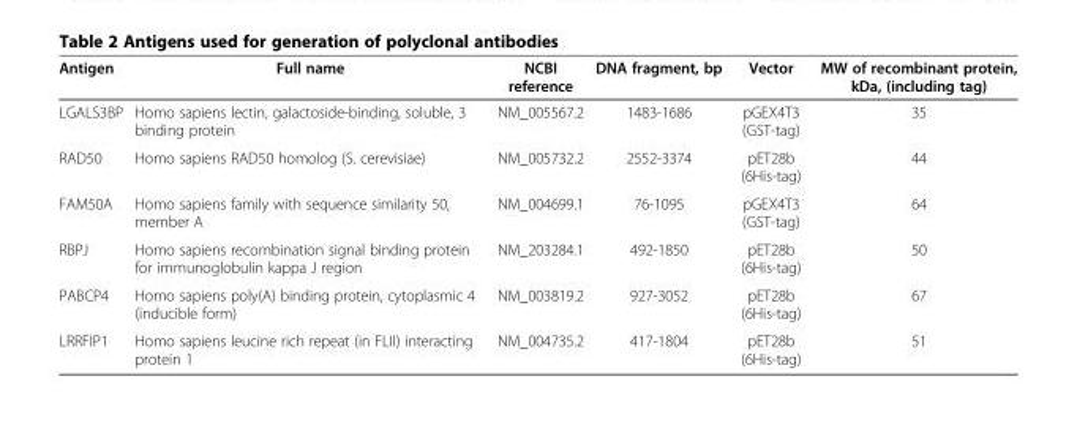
<table><thead><tr><td>Antigen</td><td>Full name</td><td>NCBI reference</td><td>DNA fragment, bp</td><td>Vector</td><td>MW of recombinant protein, kDa, (including tag)</td></tr></thead><tbody><tr><td>LGALS3BP</td><td>Homo sapiens lectin, galactoside-binding, soluble, 3 binding protein</td><td>NM_005567.2</td><td>1483-1686</td><td>pGEX4T3 (GST-tag)</td><td>35</td></tr><tr><td>RAD50</td><td>Homo sapiens RAD50 homolog (S. cerevisiae)</td><td>NM_005732.2</td><td>2552-3374</td><td>pET28b (6His-tag)</td><td>44</td></tr><tr><td>FAM50A</td><td>Homo sapiens family with sequence similarity 50, member A</td><td>NM_004699.1</td><td>76-1095</td><td>pGEX4T3 (GST-tag)</td><td>64</td></tr><tr><td>RBPJ</td><td>Homo sapiens recombination signal binding protein for immunoglobulin kappa J region</td><td>NM_203284.1</td><td>492-1850</td><td>pET28b (6His-tag)</td><td>50</td></tr><tr><td>PABCP4</td><td>Homo sapiens poly(A) binding protein, cytoplasmic 4 (inducible form)</td><td>NM_003819.2</td><td>927-3052</td><td>pET28b (6His-tag)</td><td>67</td></tr><tr><td>LRRFIP1</td><td>Homo sapiens leucine rich repeat (in FLII) interacting protein 1</td><td>NM_004735.2</td><td>417-1804</td><td>pET28b (6His-tag)</td><td>51</td></tr></tbody></table>